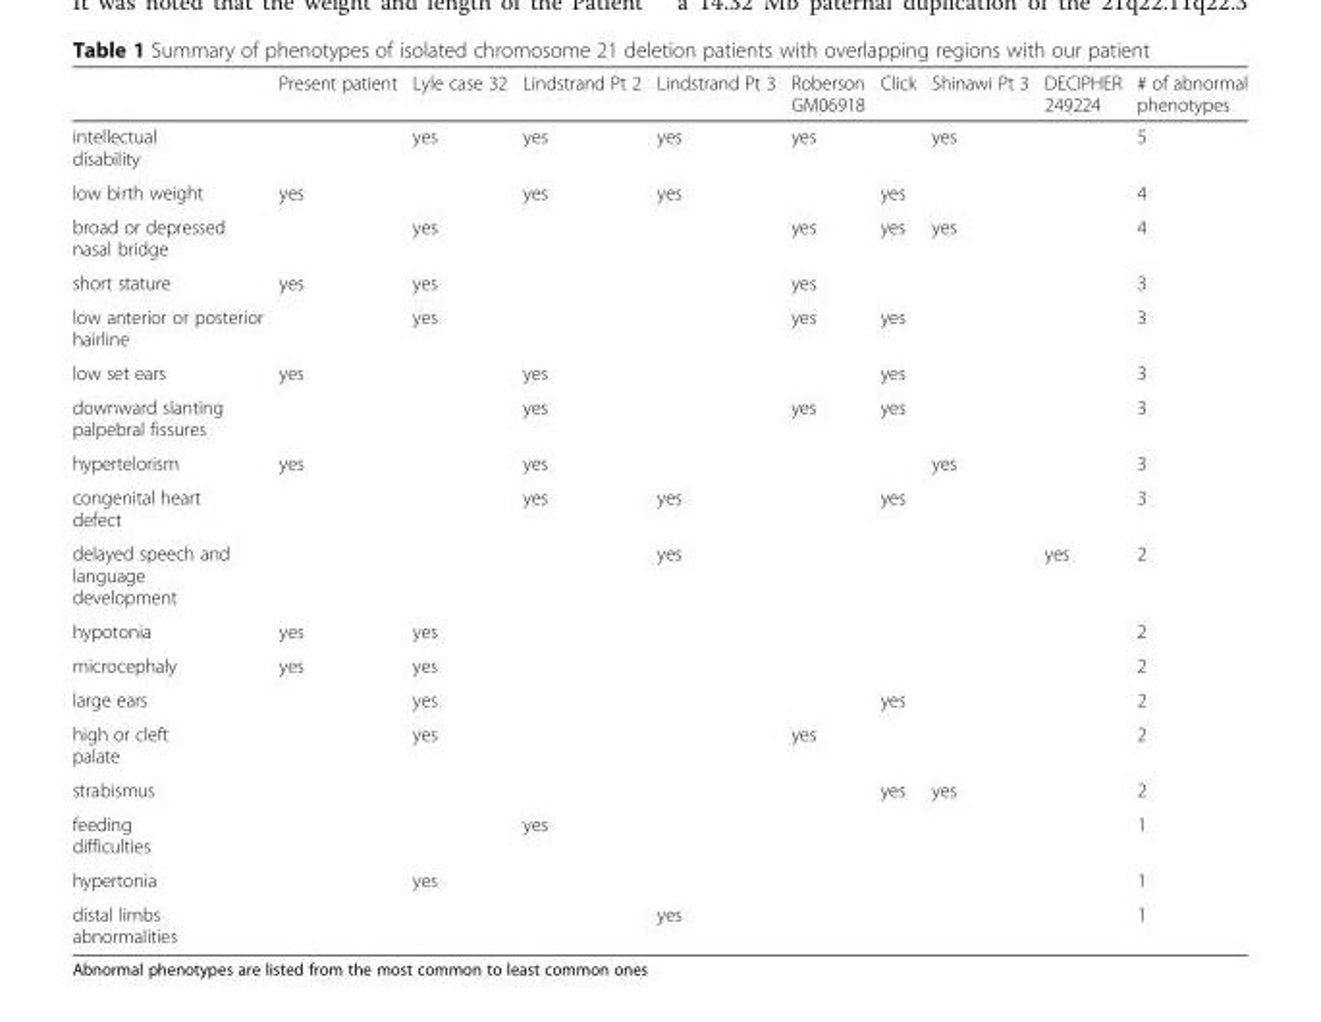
<table><thead><tr><td></td><td>Present patient</td><td>Lyle case 32</td><td>Lindstrand Pt 2</td><td>Lindstrand Pt 3</td><td>Roberson GM06918</td><td>Click</td><td>Shinawi Pt 3</td><td>DECIPHER 249224</td><td># of abnormal phenotypes</td></tr></thead><tbody><tr><td>intellectual disability</td><td></td><td>yes</td><td>yes</td><td>yes</td><td>yes</td><td></td><td>yes</td><td></td><td>5</td></tr><tr><td>low birth weight</td><td>yes</td><td></td><td>yes</td><td>yes</td><td></td><td>yes</td><td></td><td></td><td>4</td></tr><tr><td>broad or depressed nasal bridge</td><td></td><td>yes</td><td></td><td></td><td>yes</td><td>yes</td><td>yes</td><td></td><td>4</td></tr><tr><td>short stature</td><td>yes</td><td>yes</td><td></td><td></td><td>yes</td><td></td><td></td><td></td><td>3</td></tr><tr><td>low anterior or posterior hairline</td><td></td><td>yes</td><td></td><td></td><td>yes</td><td>yes</td><td></td><td></td><td>3</td></tr><tr><td>low set ears</td><td>yes</td><td></td><td>yes</td><td></td><td></td><td>yes</td><td></td><td></td><td>3</td></tr><tr><td>downward slanting palpebral fissures</td><td></td><td></td><td>yes</td><td></td><td>yes</td><td>yes</td><td></td><td></td><td>3</td></tr><tr><td>hypertelorism</td><td>yes</td><td></td><td>yes</td><td></td><td></td><td></td><td>yes</td><td></td><td>3</td></tr><tr><td>congenital heart defect</td><td></td><td></td><td>yes</td><td>yes</td><td></td><td>yes</td><td></td><td></td><td>3</td></tr><tr><td>delayed speech and language development</td><td></td><td></td><td></td><td>yes</td><td></td><td></td><td></td><td>yes</td><td>2</td></tr><tr><td>hypotonia</td><td>yes</td><td>yes</td><td></td><td></td><td></td><td></td><td></td><td></td><td>2</td></tr><tr><td>microcephaly</td><td>yes</td><td>yes</td><td></td><td></td><td></td><td></td><td></td><td></td><td>2</td></tr><tr><td>large ears</td><td></td><td>yes</td><td></td><td></td><td></td><td>yes</td><td></td><td></td><td>2</td></tr><tr><td>high or cleft palate</td><td></td><td>yes</td><td></td><td></td><td>yes</td><td></td><td></td><td></td><td>2</td></tr><tr><td>strabismus</td><td></td><td></td><td></td><td></td><td></td><td>yes</td><td>yes</td><td></td><td>2</td></tr><tr><td>feeding difficulties</td><td></td><td></td><td>yes</td><td></td><td></td><td></td><td></td><td></td><td>1</td></tr><tr><td>hypertonia</td><td></td><td>yes</td><td></td><td></td><td></td><td></td><td></td><td></td><td>1</td></tr><tr><td>distal limbs abnormalities</td><td></td><td></td><td></td><td>yes</td><td></td><td></td><td></td><td></td><td>1</td></tr></tbody></table>